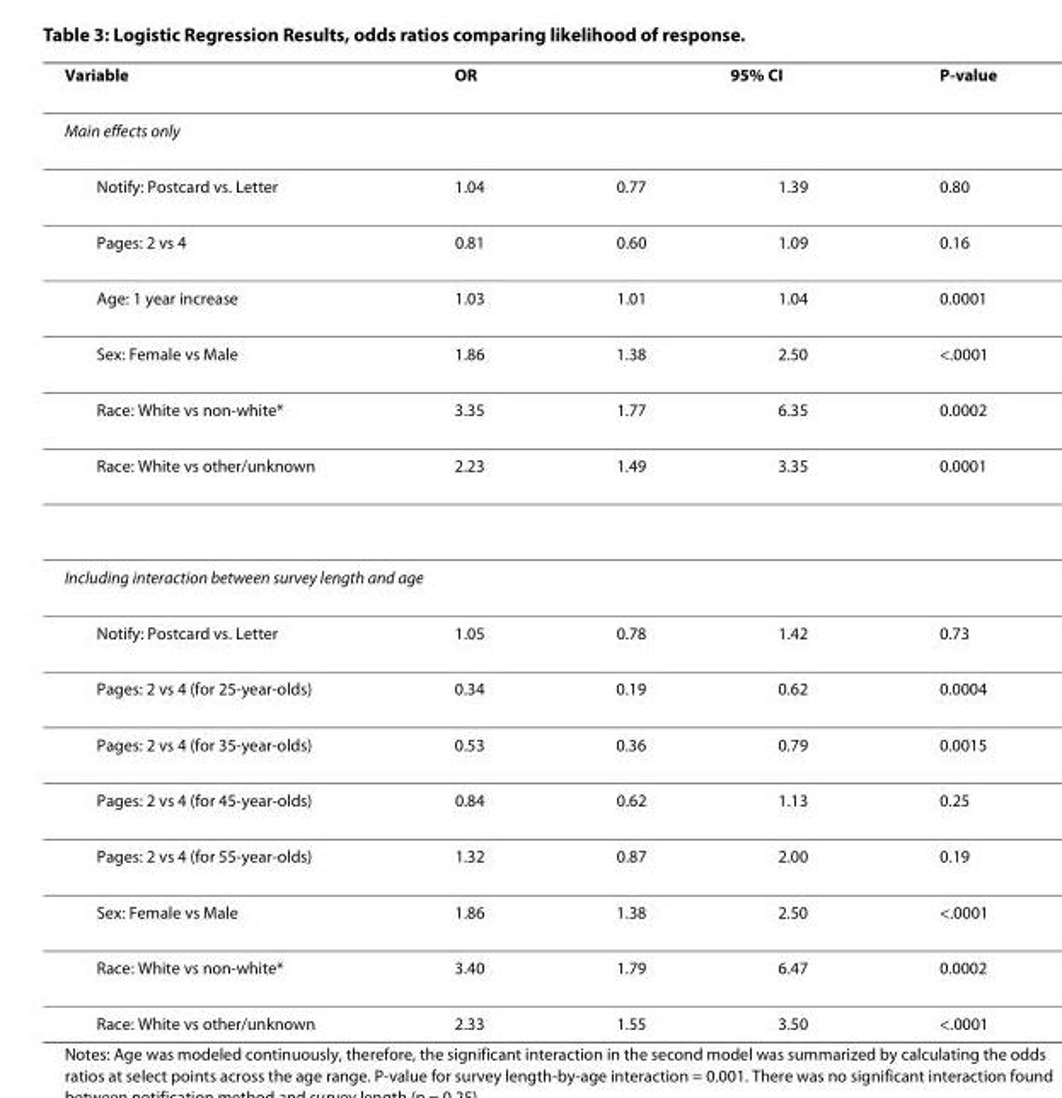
<table><thead><tr><td rowspan="2">Variable Main effects only</td><td rowspan="2">OR</td><td colspan="2">95% CI</td><td rowspan="2">P-value</td></tr><tr><td></td><td></td></tr></thead><tbody><tr><td>Notify: Postcard vs. Letter</td><td>1.04</td><td>0.77</td><td>1.39</td><td>0.80</td></tr><tr><td>Pages: 2 vs 4</td><td>0.81</td><td>0.60</td><td>1.09</td><td>0.16</td></tr><tr><td>Age: 1 year increase</td><td>1.03</td><td>1.01</td><td>1.04</td><td>0.0001</td></tr><tr><td>Sex: Female vs Male</td><td>1.86</td><td>1.38</td><td>2.50</td><td>&lt;.0001</td></tr><tr><td>Race: White vs non-white*</td><td>3.35</td><td>1.77</td><td>6.35</td><td>0.0002</td></tr><tr><td>Race: White vs other/unknown</td><td>2.23</td><td>1.49</td><td>3.35</td><td>0.0001</td></tr><tr><td colspan="5">Including interaction between survey length and age</td></tr><tr><td>Notify: Postcard vs. Letter</td><td>1.05</td><td>0.78</td><td>1.42</td><td>0.73</td></tr><tr><td>Pages: 2 vs 4 (for 25-year-olds)</td><td>0.34</td><td>0.19</td><td>0.62</td><td>0.0004</td></tr><tr><td>Pages: 2 vs 4 (for 35-year-olds)</td><td>0.53</td><td>0.36</td><td>0.79</td><td>0.0015</td></tr><tr><td>Pages: 2 vs 4 (for 45-year-olds)</td><td>0.84</td><td>0.62</td><td>1.13</td><td>0.25</td></tr><tr><td>Pages: 2 vs 4 (for 55-year-olds)</td><td>1.32</td><td>0.87</td><td>2.00</td><td>0.19</td></tr><tr><td>Sex: Female vs Male</td><td>1.86</td><td>1.38</td><td>2.50</td><td>&lt;.0001</td></tr><tr><td>Race: White vs non-white*</td><td>3.40</td><td>1.79</td><td>6.47</td><td>0.0002</td></tr><tr><td>Race: White vs other/unknown</td><td>2.33</td><td>1.55</td><td>3.50</td><td>&lt;.0001</td></tr></tbody></table>